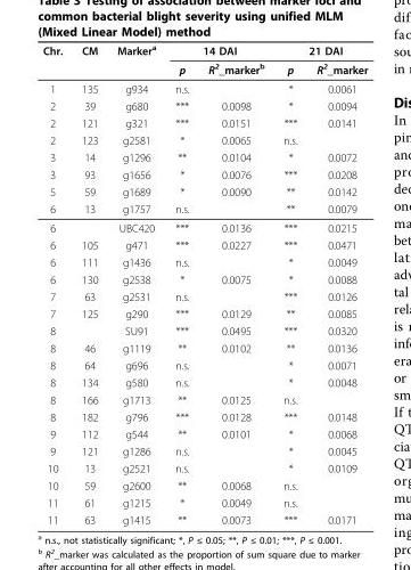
<table><thead><tr><td rowspan="2">Chr.</td><td rowspan="2">CM</td><td rowspan="2">Marker<sup>a</sup></td><td colspan="2">14 DAI</td><td colspan="2">21 DAI</td></tr><tr><td>p</td><td>R<sup>2</sup>_marker<sup>b</sup></td><td>p</td><td>R<sup>2</sup>_marker</td></tr></thead><tbody><tr><td>1</td><td>135</td><td>g934</td><td>n.s.</td><td></td><td>*</td><td>0.0061</td></tr><tr><td>2</td><td>39</td><td>g680</td><td>***</td><td>0.0098</td><td>*</td><td>0.0094</td></tr><tr><td>2</td><td>121</td><td>g321</td><td>***</td><td>0.0151</td><td>***</td><td>0.0141</td></tr><tr><td>2</td><td>123</td><td>g2581</td><td>*</td><td>0.0065</td><td>n.s.</td><td></td></tr><tr><td>3</td><td>14</td><td>g1296</td><td>**</td><td>0.0104</td><td>*</td><td>0.0072</td></tr><tr><td>3</td><td>93</td><td>g1656</td><td>*</td><td>0.0076</td><td>***</td><td>0.0208</td></tr><tr><td>5</td><td>59</td><td>g1689</td><td>*</td><td>0.0090</td><td>**</td><td>0.0142</td></tr><tr><td>6</td><td>13</td><td>g1757</td><td>n.s.</td><td></td><td>**</td><td>0.0079</td></tr><tr><td>6</td><td></td><td>UBC420</td><td>***</td><td>0.0136</td><td>***</td><td>0.0215</td></tr><tr><td>6</td><td>105</td><td>g471</td><td>***</td><td>0.0227</td><td>***</td><td>0.0471</td></tr><tr><td>6</td><td>111</td><td>g1436</td><td>n.s.</td><td></td><td>*</td><td>0.0049</td></tr><tr><td>6</td><td>130</td><td>g2538</td><td>*</td><td>0.0075</td><td>*</td><td>0.0088</td></tr><tr><td>7</td><td>63</td><td>g2531</td><td>n.s.</td><td></td><td>***</td><td>0.0126</td></tr><tr><td>7</td><td>125</td><td>g290</td><td>***</td><td>0.0129</td><td>**</td><td>0.0085</td></tr><tr><td>8</td><td></td><td>SU91</td><td>***</td><td>0.0495</td><td>***</td><td>0.0320</td></tr><tr><td>8</td><td>46</td><td>g1119</td><td>**</td><td>0.0102</td><td>**</td><td>0.0136</td></tr><tr><td>8</td><td>64</td><td>g696</td><td>n.s.</td><td></td><td>*</td><td>0.0071</td></tr><tr><td>8</td><td>134</td><td>g580</td><td>n.s.</td><td></td><td>*</td><td>0.0048</td></tr><tr><td>8</td><td>166</td><td>g1713</td><td>**</td><td>0.0125</td><td>n.s.</td><td></td></tr><tr><td>8</td><td>182</td><td>g796</td><td>***</td><td>0.0128</td><td>***</td><td>0.0148</td></tr><tr><td>9</td><td>112</td><td>g544</td><td>**</td><td>0.0101</td><td>*</td><td>0.0068</td></tr><tr><td>9</td><td>121</td><td>g1286</td><td>n.s.</td><td></td><td>*</td><td>0.0045</td></tr><tr><td>10</td><td>13</td><td>g2521</td><td>n.s.</td><td></td><td>*</td><td>0.0109</td></tr><tr><td>10</td><td>59</td><td>g2600</td><td>**</td><td>0.0068</td><td>n.s.</td><td></td></tr><tr><td>11</td><td>61</td><td>g1215</td><td>*</td><td>0.0049</td><td>n.s.</td><td></td></tr><tr><td>11</td><td>63</td><td>g1415</td><td>**</td><td>0.0073</td><td>***</td><td>0.0171</td></tr></tbody></table>